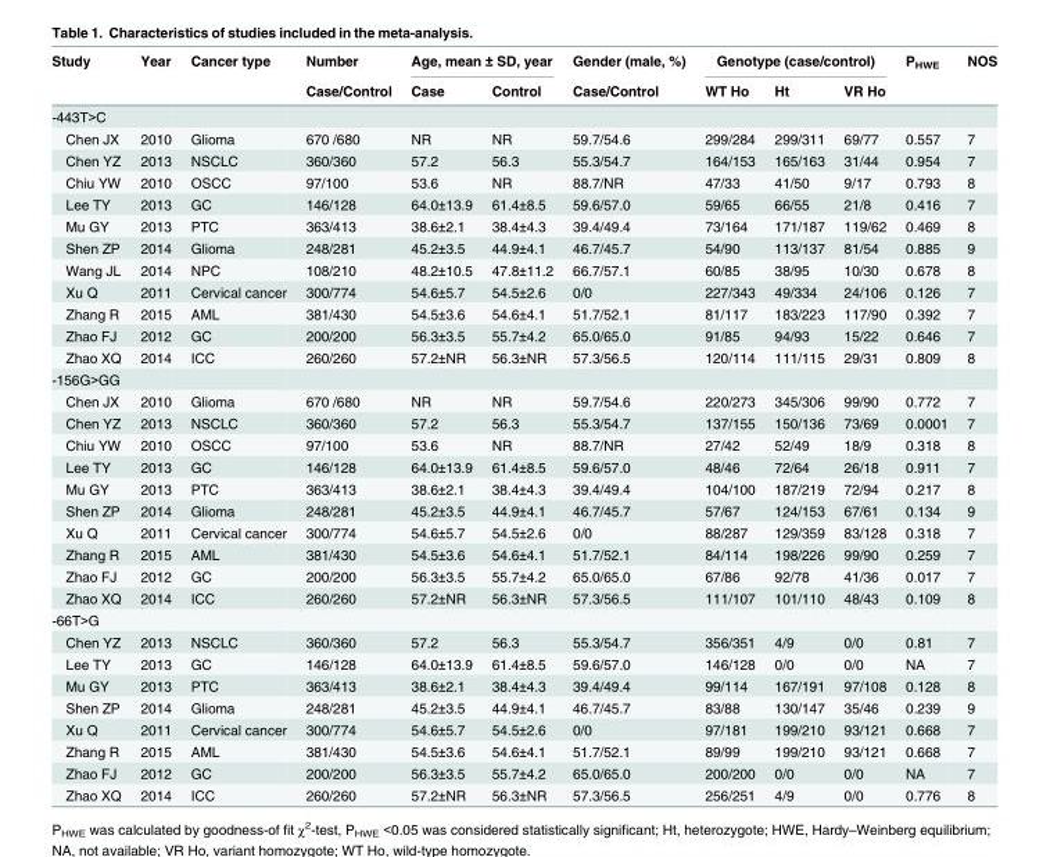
<table><thead><tr><td rowspan="2">Study</td><td rowspan="2">Year</td><td rowspan="2">Cancer type</td><td rowspan="2">Number Case/Control</td><td colspan="2">Age, mean ± SD, year</td><td rowspan="2">Gender (male, %) Case/Control</td><td colspan="3">Genotype (case/control)</td><td rowspan="2">P<sub>HWE</sub></td><td rowspan="2">NOS</td></tr><tr><td>Case</td><td>Control</td><td>WT Ho</td><td>Ht</td><td>VR Ho</td></tr></thead><tbody><tr><td colspan="12">-443T&gt;C</td></tr><tr><td>Chen JX</td><td>2010</td><td>Glioma</td><td>670 /680</td><td>NR</td><td>NR</td><td>59.7/54.6</td><td>299/284</td><td>299/311</td><td>69/77</td><td>0.557</td><td>7</td></tr><tr><td>Chen YZ</td><td>2013</td><td>NSCLC</td><td>360/360</td><td>57.2</td><td>56.3</td><td>55.3/54.7</td><td>164/153</td><td>165/163</td><td>31/44</td><td>0.954</td><td>7</td></tr><tr><td>Chiu YW</td><td>2010</td><td>OSCC</td><td>97/100</td><td>53.6</td><td>NR</td><td>88.7/NR</td><td>47/33</td><td>41/50</td><td>9/17</td><td>0.793</td><td>8</td></tr><tr><td>Lee TY</td><td>2013</td><td>GC</td><td>146/128</td><td>64.0±13.9</td><td>61.4±8.5</td><td>59.6/57.0</td><td>59/65</td><td>66/55</td><td>21/8</td><td>0.416</td><td>7</td></tr><tr><td>Mu GY</td><td>2013</td><td>PTC</td><td>363/413</td><td>38.6±2.1</td><td>38.4±4.3</td><td>39.4/49.4</td><td>73/164</td><td>171/187</td><td>119/62</td><td>0.469</td><td>8</td></tr><tr><td>Shen ZP</td><td>2014</td><td>Glioma</td><td>248/281</td><td>45.2±3.5</td><td>44.9±4.1</td><td>46.7/45.7</td><td>54/90</td><td>113/137</td><td>81/54</td><td>0.885</td><td>9</td></tr><tr><td>Wang JL</td><td>2014</td><td>NPC</td><td>108/210</td><td>48.2±10.5</td><td>47.8±11.2</td><td>66.7/57.1</td><td>60/85</td><td>38/95</td><td>10/30</td><td>0.678</td><td>8</td></tr><tr><td>Xu Q</td><td>2011</td><td>Cervical cancer</td><td>300/774</td><td>54.6±5.7</td><td>54.5±2.6</td><td>0/0</td><td>227/343</td><td>49/334</td><td>24/106</td><td>0.126</td><td>7</td></tr><tr><td>Zhang R</td><td>2015</td><td>AML</td><td>381/430</td><td>54.5±3.6</td><td>54.6±4.1</td><td>51.7/52.1</td><td>81/117</td><td>183/223</td><td>117/90</td><td>0.392</td><td>7</td></tr><tr><td>Zhao FJ</td><td>2012</td><td>GC</td><td>200/200</td><td>56.3±3.5</td><td>55.7±4.2</td><td>65.0/65.0</td><td>91/85</td><td>94/93</td><td>15/22</td><td>0.646</td><td>7</td></tr><tr><td>Zhao XQ</td><td>2014</td><td>ICC</td><td>260/260</td><td>57.2±NR</td><td>56.3±NR</td><td>57.3/56.5</td><td>120/114</td><td>111/115</td><td>29/31</td><td>0.809</td><td>8</td></tr><tr><td colspan="12">-156G&gt;GG</td></tr><tr><td>Chen JX</td><td>2010</td><td>Glioma</td><td>670 /680</td><td>NR</td><td>NR</td><td>59.7/54.6</td><td>220/273</td><td>345/306</td><td>99/90</td><td>0.772</td><td>7</td></tr><tr><td>Chen YZ</td><td>2013</td><td>NSCLC</td><td>360/360</td><td>57.2</td><td>56.3</td><td>55.3/54.7</td><td>137/155</td><td>150/136</td><td>73/69</td><td>0.0001</td><td>7</td></tr><tr><td>Chiu YW</td><td>2010</td><td>OSCC</td><td>97/100</td><td>53.6</td><td>NR</td><td>88.7/NR</td><td>27/42</td><td>52/49</td><td>18/9</td><td>0.318</td><td>8</td></tr><tr><td>Lee TY</td><td>2013</td><td>GC</td><td>146/128</td><td>64.0±13.9</td><td>61.4±8.5</td><td>59.6/57.0</td><td>48/46</td><td>72/64</td><td>26/18</td><td>0.911</td><td>7</td></tr><tr><td>Mu GY</td><td>2013</td><td>PTC</td><td>363/413</td><td>38.6±2.1</td><td>38.4±4.3</td><td>39.4/49.4</td><td>104/100</td><td>187/219</td><td>72/94</td><td>0.217</td><td>8</td></tr><tr><td>Shen ZP</td><td>2014</td><td>Glioma</td><td>248/281</td><td>45.2±3.5</td><td>44.9±4.1</td><td>46.7/45.7</td><td>57/67</td><td>124/153</td><td>67/61</td><td>0.134</td><td>9</td></tr><tr><td>Xu Q</td><td>2011</td><td>Cervical cancer</td><td>300/774</td><td>54.6±5.7</td><td>54.5±2.6</td><td>0/0</td><td>88/287</td><td>129/359</td><td>83/128</td><td>0.318</td><td>7</td></tr><tr><td>Zhang R</td><td>2015</td><td>AML</td><td>381/430</td><td>54.5±3.6</td><td>54.6±4.1</td><td>51.7/52.1</td><td>84/114</td><td>198/226</td><td>99/90</td><td>0.259</td><td>7</td></tr><tr><td>Zhao FJ</td><td>2012</td><td>GC</td><td>200/200</td><td>56.3±3.5</td><td>55.7±4.2</td><td>65.0/65.0</td><td>67/86</td><td>92/78</td><td>41/36</td><td>0.017</td><td>7</td></tr><tr><td>Zhao XQ</td><td>2014</td><td>ICC</td><td>260/260</td><td>57.2±NR</td><td>56.3±NR</td><td>57.3/56.5</td><td>111/107</td><td>101/110</td><td>48/43</td><td>0.109</td><td>8</td></tr><tr><td colspan="12">-66T&gt;G</td></tr><tr><td>Chen YZ</td><td>2013</td><td>NSCLC</td><td>360/360</td><td>57.2</td><td>56.3</td><td>55.3/54.7</td><td>356/351</td><td>4/9</td><td>0/0</td><td>0.81</td><td>7</td></tr><tr><td>Lee TY</td><td>2013</td><td>GC</td><td>146/128</td><td>64.0±13.9</td><td>61.4±8.5</td><td>59.6/57.0</td><td>146/128</td><td>0/0</td><td>0/0</td><td>NA</td><td>7</td></tr><tr><td>Mu GY</td><td>2013</td><td>PTC</td><td>363/413</td><td>38.6±2.1</td><td>38.4±4.3</td><td>39.4/49.4</td><td>99/114</td><td>167/191</td><td>97/108</td><td>0.128</td><td>8</td></tr><tr><td>Shen ZP</td><td>2014</td><td>Glioma</td><td>248/281</td><td>45.2±3.5</td><td>44.9±4.1</td><td>46.7/45.7</td><td>83/88</td><td>130/147</td><td>35/46</td><td>0.239</td><td>9</td></tr><tr><td>Xu Q</td><td>2011</td><td>Cervical cancer</td><td>300/774</td><td>54.6±5.7</td><td>54.5±2.6</td><td>0/0</td><td>97/181</td><td>199/210</td><td>93/121</td><td>0.668</td><td>7</td></tr><tr><td>Zhang R</td><td>2015</td><td>AML</td><td>381/430</td><td>54.5±3.6</td><td>54.6±4.1</td><td>51.7/52.1</td><td>89/99</td><td>199/210</td><td>93/121</td><td>0.668</td><td>7</td></tr><tr><td>Zhao FJ</td><td>2012</td><td>GC</td><td>200/200</td><td>56.3±3.5</td><td>55.7±4.2</td><td>65.0/65.0</td><td>200/200</td><td>0/0</td><td>0/0</td><td>NA</td><td>7</td></tr><tr><td>Zhao XQ</td><td>2014</td><td>ICC</td><td>260/260</td><td>57.2±NR</td><td>56.3±NR</td><td>57.3/56.5</td><td>256/251</td><td>4/9</td><td>0/0</td><td>0.776</td><td>8</td></tr></tbody></table>